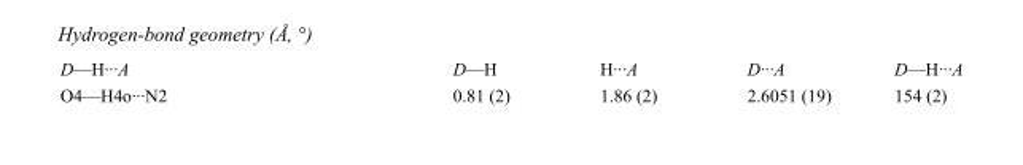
<table><tbody><tr><td>D—H···A</td><td>D—H</td><td>H···A</td><td>D···A</td><td>D—H···A</td></tr><tr><td>O4—H4o···N2</td><td>0.81 (2)</td><td>1.86 (2)</td><td>2.6051 (19)</td><td>154 (2)</td></tr></tbody></table>